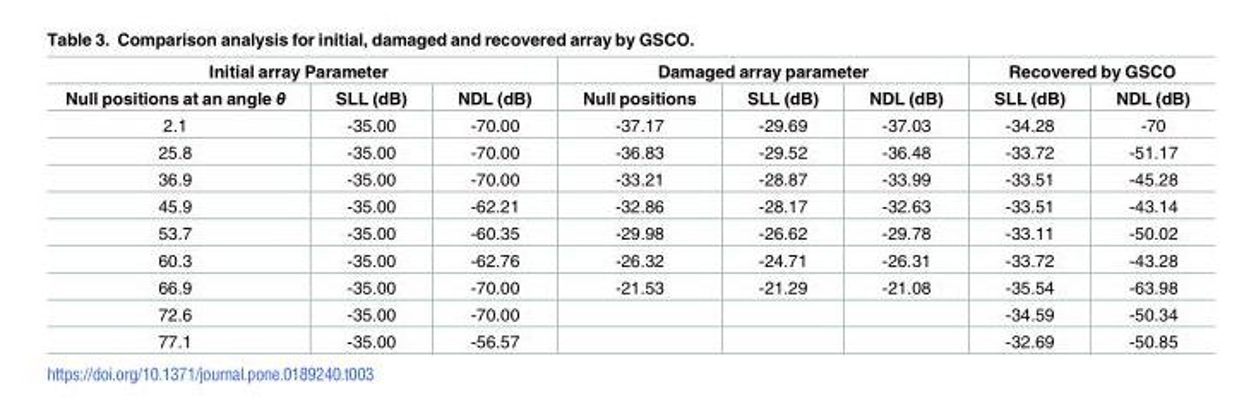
<table><thead><tr><td colspan="3">Initial array Parameter</td><td colspan="3">Damaged array parameter</td><td colspan="2">Recovered by GSCO</td></tr><tr><td>Null positions at an angle θ</td><td>SLL (dB)</td><td>NDL (dB)</td><td>Null positions</td><td>SLL (dB)</td><td>NDL (dB)</td><td>SLL (dB)</td><td>NDL (dB)</td></tr></thead><tbody><tr><td>2.1</td><td>-35.00</td><td>-70.00</td><td>-37.17</td><td>-29.69</td><td>-37.03</td><td>-34.28</td><td>-70</td></tr><tr><td>25.8</td><td>-35.00</td><td>-70.00</td><td>-36.83</td><td>-29.52</td><td>-36.48</td><td>-33.72</td><td>-51.17</td></tr><tr><td>36.9</td><td>-35.00</td><td>-70.00</td><td>-33.21</td><td>-28.87</td><td>-33.99</td><td>-33.51</td><td>-45.28</td></tr><tr><td>45.9</td><td>-35.00</td><td>-62.21</td><td>-32.86</td><td>-28.17</td><td>-32.63</td><td>-33.51</td><td>-43.14</td></tr><tr><td>53.7</td><td>-35.00</td><td>-60.35</td><td>-29.98</td><td>-26.62</td><td>-29.78</td><td>-33.11</td><td>-50.02</td></tr><tr><td>60.3</td><td>-35.00</td><td>-62.76</td><td>-26.32</td><td>-24.71</td><td>-26.31</td><td>-33.72</td><td>-43.28</td></tr><tr><td>66.9</td><td>-35.00</td><td>-70.00</td><td>-21.53</td><td>-21.29</td><td>-21.08</td><td>-35.54</td><td>-63.98</td></tr><tr><td>72.6</td><td>-35.00</td><td>-70.00</td><td></td><td></td><td></td><td>-34.59</td><td>-50.34</td></tr><tr><td>77.1</td><td>-35.00</td><td>-56.57</td><td></td><td></td><td></td><td>-32.69</td><td>-50.85</td></tr></tbody></table>